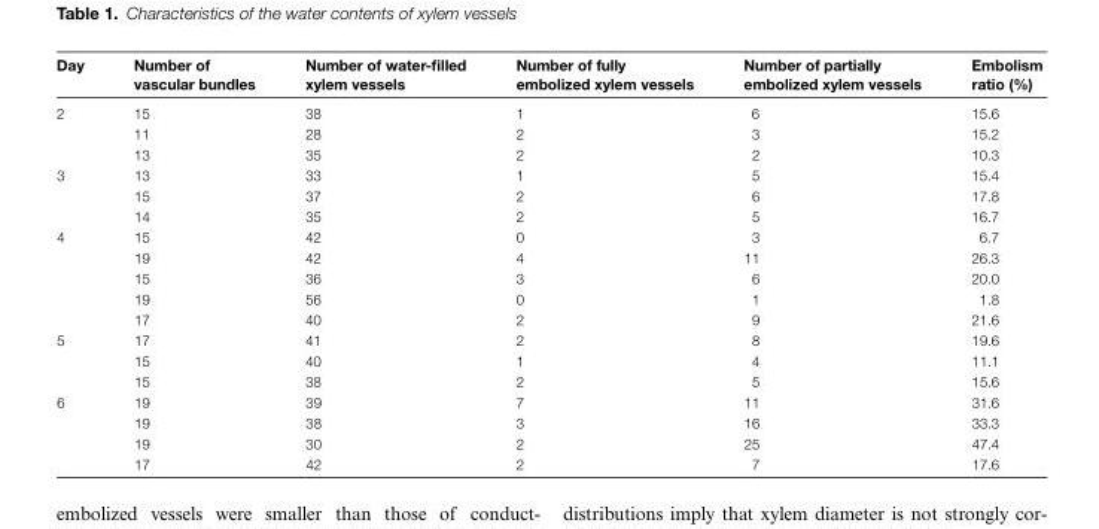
<table><thead><tr><td>Day</td><td>Number of vascular bundles</td><td>Number of water-filled xylem vessels</td><td>Number of fully embolized xylem vessels</td><td>Number of partially embolized xylem vessels</td><td>Embolism ratio (%)</td></tr></thead><tbody><tr><td rowspan="3">2</td><td>15</td><td>38</td><td>1</td><td>6</td><td>15.6</td></tr><tr><td>11</td><td>28</td><td>2</td><td>3</td><td>15.2</td></tr><tr><td>13</td><td>35</td><td>2</td><td>2</td><td>10.3</td></tr><tr><td rowspan="3">3</td><td>13</td><td>33</td><td>1</td><td>5</td><td>15.4</td></tr><tr><td>15</td><td>37</td><td>2</td><td>6</td><td>17.8</td></tr><tr><td>14</td><td>35</td><td>2</td><td>5</td><td>16.7</td></tr><tr><td rowspan="5">4</td><td>15</td><td>42</td><td>0</td><td>3</td><td>6.7</td></tr><tr><td>19</td><td>42</td><td>4</td><td>11</td><td>26.3</td></tr><tr><td>15</td><td>36</td><td>3</td><td>6</td><td>20.0</td></tr><tr><td>19</td><td>56</td><td>0</td><td>1</td><td>1.8</td></tr><tr><td>17</td><td>40</td><td>2</td><td>9</td><td>21.6</td></tr><tr><td rowspan="3">5</td><td>17</td><td>41</td><td>2</td><td>8</td><td>19.6</td></tr><tr><td>15</td><td>40</td><td>1</td><td>4</td><td>11.1</td></tr><tr><td>15</td><td>38</td><td>2</td><td>5</td><td>15.6</td></tr><tr><td rowspan="4">6</td><td>19</td><td>39</td><td>7</td><td>11</td><td>31.6</td></tr><tr><td>19</td><td>38</td><td>3</td><td>16</td><td>33.3</td></tr><tr><td>19</td><td>30</td><td>2</td><td>25</td><td>47.4</td></tr><tr><td>17</td><td>42</td><td>2</td><td>7</td><td>17.6</td></tr></tbody></table>